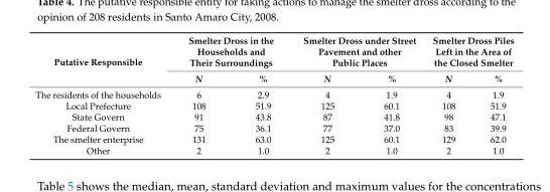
<table><thead><tr><td rowspan="2">Putative Responsible</td><td colspan="2">Smelter Dross in the Households and Their Surroundings</td><td colspan="2">Smelter Dross under Street Pavement and other Public Places</td><td colspan="2">Smelter Dross Piles Left in the Area of the Closed Smelter</td></tr><tr><td>N</td><td>%</td><td>N</td><td>%</td><td>N</td><td>%</td></tr></thead><tbody><tr><td>The residents of the households</td><td>6</td><td>2.9</td><td>4</td><td>1.9</td><td>4</td><td>1.9</td></tr><tr><td>Local Prefecture</td><td>108</td><td>51.9</td><td>125</td><td>60.1</td><td>108</td><td>51.9</td></tr><tr><td>State Govern</td><td>91</td><td>43.8</td><td>87</td><td>41.8</td><td>98</td><td>47.1</td></tr><tr><td>Federal Govern</td><td>75</td><td>36.1</td><td>77</td><td>37.0</td><td>83</td><td>39.9</td></tr><tr><td>The smelter enterprise</td><td>131</td><td>63.0</td><td>125</td><td>60.1</td><td>129</td><td>62.0</td></tr><tr><td>Other</td><td>2</td><td>1.0</td><td>2</td><td>1.0</td><td>2</td><td>1.0</td></tr></tbody></table>